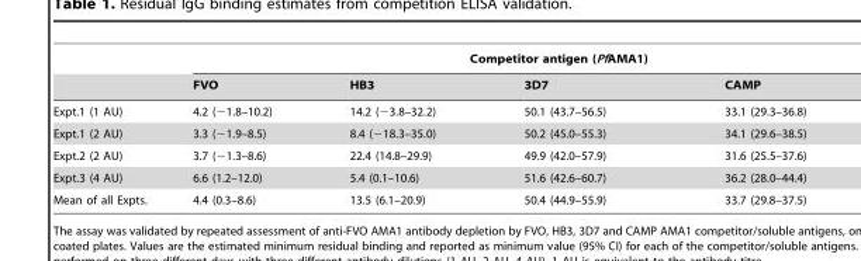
<table><thead><tr><td rowspan="2"></td><td colspan="4">Competitor antigen (PfAMA1)</td></tr><tr><td>FVO</td><td>HB3</td><td>3D7</td><td>CAMP</td></tr></thead><tbody><tr><td>Expt.1 (1 AU)</td><td>4.2 (−1.8–10.2)</td><td>14.2 (−3.8–32.2)</td><td>50.1 (43.7–56.5)</td><td>33.1 (29.3–36.8)</td></tr><tr><td>Expt.1 (2 AU)</td><td>3.3 (−1.9–8.5)</td><td>8.4 (−18.3–35.0)</td><td>50.2 (45.0–55.3)</td><td>34.1 (29.6–38.5)</td></tr><tr><td>Expt.2 (2 AU)</td><td>3.7 (−1.3–8.6)</td><td>22.4 (14.8–29.9)</td><td>49.9 (42.0–57.9)</td><td>31.6 (25.5–37.6)</td></tr><tr><td>Expt.3 (4 AU)</td><td>6.6 (1.2–12.0)</td><td>5.4 (0.1–10.6)</td><td>51.6 (42.6–60.7)</td><td>36.2 (28.0–44.4)</td></tr><tr><td>Mean of all Expts.</td><td>4.4 (0.3–8.6)</td><td>13.5 (6.1–20.9)</td><td>50.4 (44.9–55.9)</td><td>33.7 (29.8–37.5)</td></tr></tbody></table>